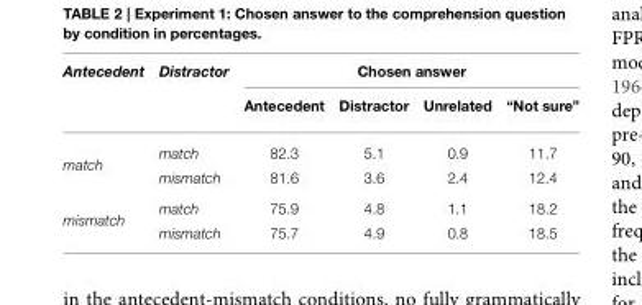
<table><thead><tr><td rowspan="2">Antecedent</td><td rowspan="2">Distractor</td><td colspan="4">Chosen answer</td></tr><tr><td>Antecedent</td><td>Distractor</td><td>Unrelated</td><td>“Not sure”</td></tr></thead><tbody><tr><td rowspan="2">match</td><td>match</td><td>82.3</td><td>5.1</td><td>0.9</td><td>11.7</td></tr><tr><td>mismatch</td><td>81.6</td><td>3.6</td><td>2.4</td><td>12.4</td></tr><tr><td rowspan="2">mismatch</td><td>match</td><td>75.9</td><td>4.8</td><td>1.1</td><td>18.2</td></tr><tr><td>mismatch</td><td>75.7</td><td>4.9</td><td>0.8</td><td>18.5</td></tr></tbody></table>